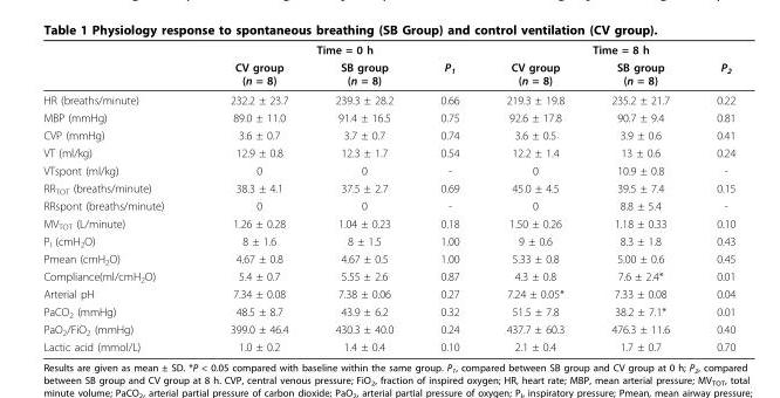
<table><thead><tr><td rowspan="2"></td><td colspan="3">Time = 0 h</td><td colspan="3">Time = 8 h</td></tr><tr><td>CV group (n = 8)</td><td>SB group (n = 8)</td><td>P<sub>1</sub></td><td>CV group (n = 8)</td><td>SB group (n = 8)</td><td>P<sub>2</sub></td></tr></thead><tbody><tr><td>HR (breaths/minute)</td><td>232.2 ± 23.7</td><td>239.3 ± 28.2</td><td>0.66</td><td>219.3 ± 19.8</td><td>235.2 ± 21.7</td><td>0.22</td></tr><tr><td>MBP (mmHg)</td><td>89.0 ± 11.0</td><td>91.4 ± 16.5</td><td>0.75</td><td>92.6 ± 17.8</td><td>90.7 ± 9.4</td><td>0.81</td></tr><tr><td>CVP (mmHg)</td><td>3.6 ± 0.7</td><td>3.7 ± 0.7</td><td>0.74</td><td>3.6 ± 0.5</td><td>3.9 ± 0.6</td><td>0.41</td></tr><tr><td>VT (ml/kg)</td><td>12.9 ± 0.8</td><td>12.3 ± 1.7</td><td>0.54</td><td>12.2 ± 1.4</td><td>13 ± 0.6</td><td>0.24</td></tr><tr><td>VTspont (ml/kg)</td><td>0</td><td>0</td><td>-</td><td>0</td><td>10.9 ± 0.8</td><td>-</td></tr><tr><td>RR<sub>TOT</sub> (breaths/minute)</td><td>38.3 ± 4.1</td><td>37.5 ± 2.7</td><td>0.69</td><td>45.0 ± 4.5</td><td>39.5 ± 7.4</td><td>0.15</td></tr><tr><td>RRspont (breaths/minute)</td><td>0</td><td>0</td><td>-</td><td>0</td><td>8.8 ± 5.4</td><td>-</td></tr><tr><td>MV<sub>TOT</sub> (L/minute)</td><td>1.26 ± 0.28</td><td>1.04 ± 0.23</td><td>0.18</td><td>1.50 ± 0.26</td><td>1.18 ± 0.33</td><td>0.10</td></tr><tr><td>P<sub>I</sub> (cmH<sub>2</sub>O)</td><td>8 ± 1.6</td><td>8 ± 1.5</td><td>1.00</td><td>9 ± 0.6</td><td>8.3 ± 1.8</td><td>0.43</td></tr><tr><td>Pmean (cmH<sub>2</sub>O)</td><td>4.67 ± 0.8</td><td>4.67 ± 0.5</td><td>1.00</td><td>5.33 ± 0.8</td><td>5.00 ± 0.6</td><td>0.45</td></tr><tr><td>Compliance(ml/cmH<sub>2</sub>O)</td><td>5.4 ± 0.7</td><td>5.55 ± 2.6</td><td>0.87</td><td>4.3 ± 0.8</td><td>7.6 ± 2.4*</td><td>0.01</td></tr><tr><td>Arterial pH</td><td>7.34 ± 0.08</td><td>7.38 ± 0.06</td><td>0.27</td><td>7.24 ± 0.05*</td><td>7.33 ± 0.08</td><td>0.04</td></tr><tr><td>PaCO<sub>2</sub> (mmHg)</td><td>48.5 ± 8.7</td><td>43.9 ± 6.2</td><td>0.32</td><td>51.5 ± 7.8</td><td>38.2 ± 7.1*</td><td>0.01</td></tr><tr><td>PaO<sub>2</sub>/FiO<sub>2</sub> (mmHg)</td><td>399.0 ± 46.4</td><td>430.3 ± 40.0</td><td>0.24</td><td>437.7 ± 60.3</td><td>476.3 ± 11.6</td><td>0.40</td></tr><tr><td>Lactic acid (mmol/L)</td><td>1.0 ± 0.2</td><td>1.4 ± 0.4</td><td>0.10</td><td>2.1 ± 0.4</td><td>1.7 ± 0.7</td><td>0.70</td></tr></tbody></table>